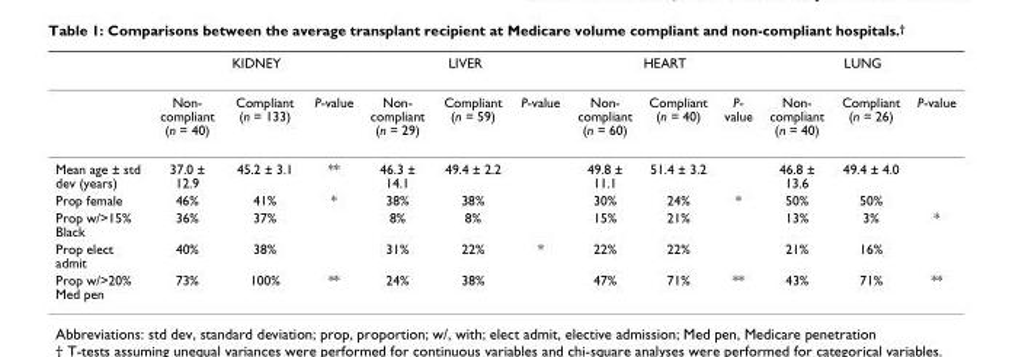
<table><thead><tr><td rowspan="2"></td><td colspan="3">KIDNEY</td><td colspan="3">LIVER</td><td colspan="3">HEART</td><td colspan="3">LUNG</td></tr><tr><td>Non- compliant (n = 40)</td><td>Compliant (n = 133)</td><td>P-value</td><td>Non- compliant (n = 29)</td><td>Compliant (n = 59)</td><td>P-value</td><td>Non- compliant (n = 60)</td><td>Compliant (n = 40)</td><td>P- value</td><td>Non- compliant (n = 40)</td><td>Compliant (n = 26)</td><td>P-value</td></tr></thead><tbody><tr><td>Mean age ± std dev (years)</td><td>37.0 ± 12.9</td><td>45.2 ± 3.1</td><td>**</td><td>46.3 ± 14.1</td><td>49.4 ± 2.2</td><td></td><td>49.8 ± 11.1</td><td>51.4 ± 3.2</td><td></td><td>46.8 ± 13.6</td><td>49.4 ± 4.0</td><td></td></tr><tr><td>Prop female</td><td>46%</td><td>41%</td><td>*</td><td>38%</td><td>38%</td><td></td><td>30%</td><td>24%</td><td>*</td><td>50%</td><td>50%</td><td></td></tr><tr><td>Prop w/&gt;15% Black</td><td>36%</td><td>37%</td><td></td><td>8%</td><td>8%</td><td></td><td>15%</td><td>21%</td><td></td><td>13%</td><td>3%</td><td>*</td></tr><tr><td>Prop elect admit</td><td>40%</td><td>38%</td><td></td><td>31%</td><td>22%</td><td>*</td><td>22%</td><td>22%</td><td></td><td>21%</td><td>16%</td><td></td></tr><tr><td>Prop w/&gt;20% Med pen</td><td>73%</td><td>100%</td><td>**</td><td>24%</td><td>38%</td><td></td><td>47%</td><td>71%</td><td>**</td><td>43%</td><td>71%</td><td>**</td></tr></tbody></table>